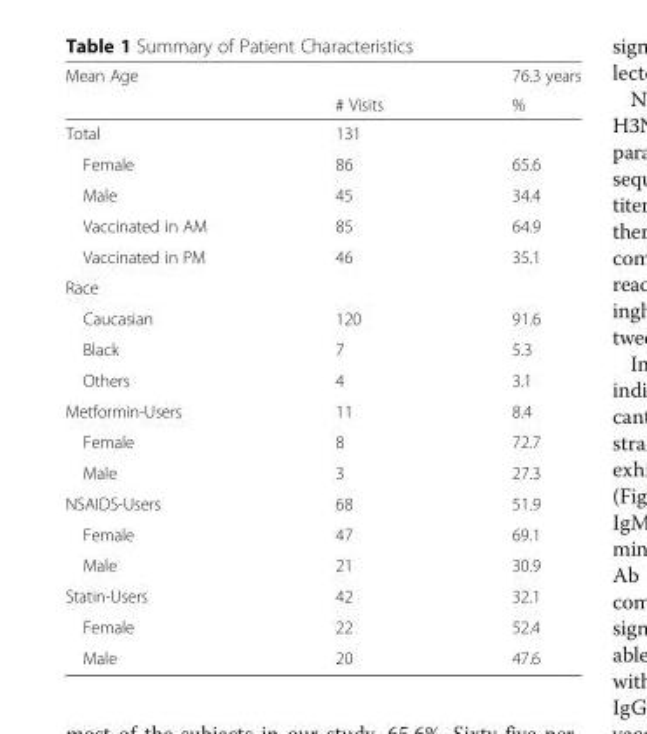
<table><thead><tr><td rowspan="2">Mean Age</td><td rowspan="2"># Visits</td><td rowspan="2">76.3 years %</td></tr><tr></tr></thead><tbody><tr><td>Total</td><td>131</td><td></td></tr><tr><td>Female</td><td>86</td><td>65.6</td></tr><tr><td>Male</td><td>45</td><td>34.4</td></tr><tr><td>Vaccinated in AM</td><td>85</td><td>64.9</td></tr><tr><td>Vaccinated in PM</td><td>46</td><td>35.1</td></tr><tr><td colspan="3">Race</td></tr><tr><td>Caucasian</td><td>120</td><td>91.6</td></tr><tr><td>Black</td><td>7</td><td>5.3</td></tr><tr><td>Others</td><td>4</td><td>3.1</td></tr><tr><td>Metformin-Users</td><td>11</td><td>8.4</td></tr><tr><td>Female</td><td>8</td><td>72.7</td></tr><tr><td>Male</td><td>3</td><td>27.3</td></tr><tr><td>NSAIDS-Users</td><td>68</td><td>51.9</td></tr><tr><td>Female</td><td>47</td><td>69.1</td></tr><tr><td>Male</td><td>21</td><td>30.9</td></tr><tr><td>Statin-Users</td><td>42</td><td>32.1</td></tr><tr><td>Female</td><td>22</td><td>52.4</td></tr><tr><td>Male</td><td>20</td><td>47.6</td></tr></tbody></table>